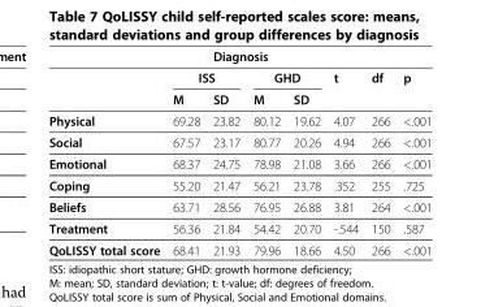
<table><thead><tr><td colspan="8">Diagnosis</td></tr><tr><td rowspan="2"></td><td colspan="2">ISS</td><td colspan="2">GHD</td><td rowspan="2">t</td><td rowspan="2">df</td><td rowspan="2">p</td></tr><tr><td>M</td><td>SD</td><td>M</td><td>SD</td></tr></thead><tbody><tr><td>Physical</td><td>69.28</td><td>23.82</td><td>80.12</td><td>19.62</td><td>4.07</td><td>266</td><td>&lt;.001</td></tr><tr><td>Social</td><td>67.57</td><td>23.17</td><td>80.77</td><td>20.26</td><td>4.94</td><td>266</td><td>&lt;.001</td></tr><tr><td>Emotional</td><td>68.37</td><td>24.75</td><td>78.98</td><td>21.08</td><td>3.66</td><td>266</td><td>&lt;.001</td></tr><tr><td>Coping</td><td>55.20</td><td>21.47</td><td>56.21</td><td>23.78</td><td>.352</td><td>255</td><td>.725</td></tr><tr><td>Beliefs</td><td>63.71</td><td>28.56</td><td>76.95</td><td>26.88</td><td>3.81</td><td>264</td><td>&lt;.001</td></tr><tr><td>Treatment</td><td>56.36</td><td>21.84</td><td>54.42</td><td>20.70</td><td>-.544</td><td>150</td><td>.587</td></tr><tr><td>QoLISSY total score</td><td>68.41</td><td>21.93</td><td>79.96</td><td>18.66</td><td>4.50</td><td>266</td><td>&lt;.001</td></tr></tbody></table>